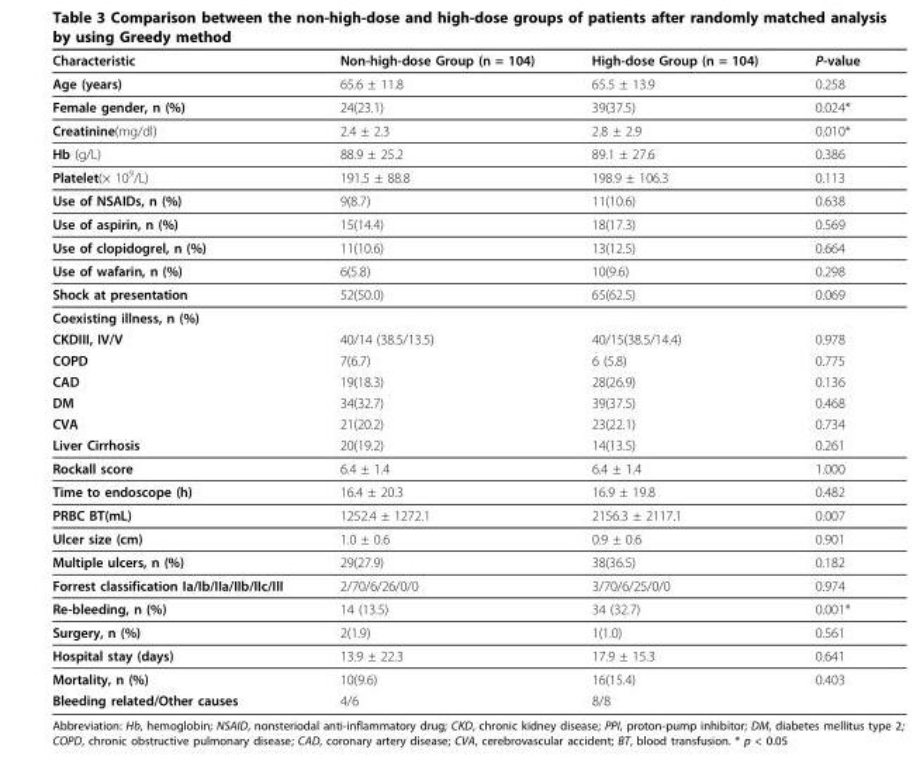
<table><thead><tr><td>Characteristic</td><td>Non-high-dose Group (n = 104)</td><td>High-dose Group (n = 104)</td><td>P-value</td></tr></thead><tbody><tr><td>Age (years)</td><td>65.6 ± 11.8</td><td>65.5 ± 13.9</td><td>0.258</td></tr><tr><td>Female gender, n (%)</td><td>24(23.1)</td><td>39(37.5)</td><td>0.024*</td></tr><tr><td>Creatinine(mg/dl)</td><td>2.4 ± 2.3</td><td>2.8 ± 2.9</td><td>0.010*</td></tr><tr><td>Hb (g/L)</td><td>88.9 ± 25.2</td><td>89.1 ± 27.6</td><td>0.386</td></tr><tr><td>Platelet(× 10<sup>9</sup>/L)</td><td>191.5 ± 88.8</td><td>198.9 ± 106.3</td><td>0.113</td></tr><tr><td>Use of NSAIDs, n (%)</td><td>9(8.7)</td><td>11(10.6)</td><td>0.638</td></tr><tr><td>Use of aspirin, n (%)</td><td>15(14.4)</td><td>18(17.3)</td><td>0.569</td></tr><tr><td>Use of clopidogrel, n (%)</td><td>11(10.6)</td><td>13(12.5)</td><td>0.664</td></tr><tr><td>Use of wafarin, n (%)</td><td>6(5.8)</td><td>10(9.6)</td><td>0.298</td></tr><tr><td>Shock at presentation</td><td>52(50.0)</td><td>65(62.5)</td><td>0.069</td></tr><tr><td colspan="4">Coexisting illness, n (%)</td></tr><tr><td>CKDIII, IV/V</td><td>40/14 (38.5/13.5)</td><td>40/15(38.5/14.4)</td><td>0.978</td></tr><tr><td>COPD</td><td>7(6.7)</td><td>6 (5.8)</td><td>0.775</td></tr><tr><td>CAD</td><td>19(18.3)</td><td>28(26.9)</td><td>0.136</td></tr><tr><td>DM</td><td>34(32.7)</td><td>39(37.5)</td><td>0.468</td></tr><tr><td>CVA</td><td>21(20.2)</td><td>23(22.1)</td><td>0.734</td></tr><tr><td>Liver Cirrhosis</td><td>20(19.2)</td><td>14(13.5)</td><td>0.261</td></tr><tr><td>Rockall score</td><td>6.4 ± 1.4</td><td>6.4 ± 1.4</td><td>1.000</td></tr><tr><td>Time to endoscope (h)</td><td>16.4 ± 20.3</td><td>16.9 ± 19.8</td><td>0.482</td></tr><tr><td>PRBC BT(mL)</td><td>1252.4 ± 1272.1</td><td>2156.3 ± 2117.1</td><td>0.007</td></tr><tr><td>Ulcer size (cm)</td><td>1.0 ± 0.6</td><td>0.9 ± 0.6</td><td>0.901</td></tr><tr><td>Multiple ulcers, n (%)</td><td>29(27.9)</td><td>38(36.5)</td><td>0.182</td></tr><tr><td>Forrest classification Ia/Ib/IIa/IIb/IIc/III</td><td>2/70/6/26/0/0</td><td>3/70/6/25/0/0</td><td>0.974</td></tr><tr><td>Re-bleeding, n (%)</td><td>14 (13.5)</td><td>34 (32.7)</td><td>0.001*</td></tr><tr><td>Surgery, n (%)</td><td>2(1.9)</td><td>1(1.0)</td><td>0.561</td></tr><tr><td>Hospital stay (days)</td><td>13.9 ± 22.3</td><td>17.9 ± 15.3</td><td>0.641</td></tr><tr><td>Mortality, n (%)</td><td>10(9.6)</td><td>16(15.4)</td><td>0.403</td></tr><tr><td>Bleeding related/Other causes</td><td>4/6</td><td>8/8</td><td></td></tr></tbody></table>